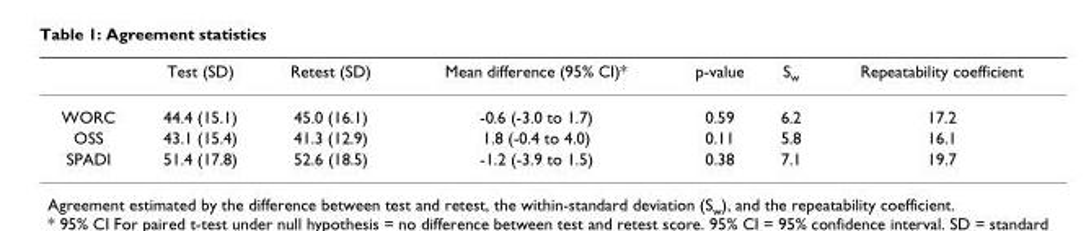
<table><thead><tr><td></td><td>Test (SD)</td><td>Retest (SD)</td><td>Mean difference (95% CI)*</td><td>p-value</td><td>S<sub>w</sub></td><td>Repeatability coefficient</td></tr></thead><tbody><tr><td>WORC</td><td>44.4 (15.1)</td><td>45.0 (16.1)</td><td>-0.6 (-3.0 to 1.7)</td><td>0.59</td><td>6.2</td><td>17.2</td></tr><tr><td>OSS</td><td>43.1 (15.4)</td><td>41.3 (12.9)</td><td>1.8 (-0.4 to 4.0)</td><td>0.11</td><td>5.8</td><td>16.1</td></tr><tr><td>SPADI</td><td>51.4 (17.8)</td><td>52.6 (18.5)</td><td>-1.2 (-3.9 to 1.5)</td><td>0.38</td><td>7.1</td><td>19.7</td></tr></tbody></table>